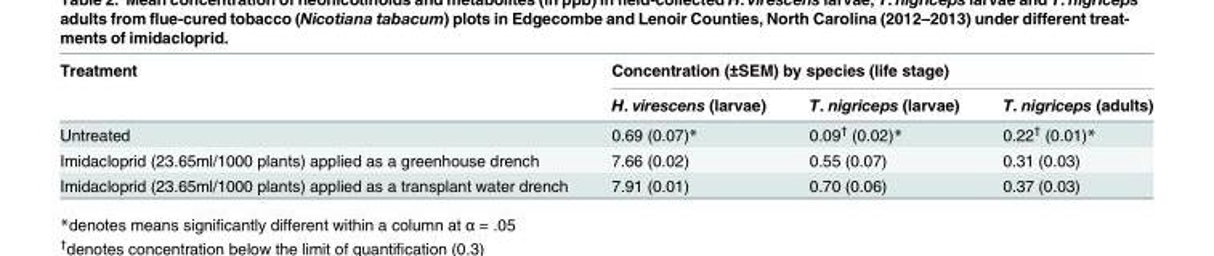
<table><thead><tr><td rowspan="2">Treatment</td><td colspan="3">Concentration (±SEM) by species (life stage)</td></tr><tr><td>H. virescens (larvae)</td><td>T. nigriceps (larvae)</td><td>T. nigriceps (adults)</td></tr></thead><tbody><tr><td>Untreated</td><td>0.69 (0.07)*</td><td>0.09<sup>†</sup> (0.02)*</td><td>0.22<sup>†</sup> (0.01)*</td></tr><tr><td>Imidacloprid (23.65ml/1000 plants) applied as a greenhouse drench</td><td>7.66 (0.02)</td><td>0.55 (0.07)</td><td>0.31 (0.03)</td></tr><tr><td>Imidacloprid (23.65ml/1000 plants) applied as a transplant water drench</td><td>7.91 (0.01)</td><td>0.70 (0.06)</td><td>0.37 (0.03)</td></tr></tbody></table>